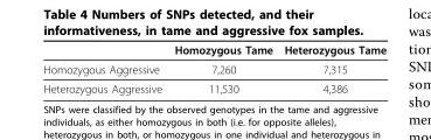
<table><thead><tr><td></td><td>Homozygous Tame</td><td>Heterozygous Tame</td></tr></thead><tbody><tr><td>Homozygous Aggressive</td><td>7,260</td><td>7,315</td></tr><tr><td>Heterozygous Aggressive</td><td>11,530</td><td>4,386</td></tr></tbody></table>